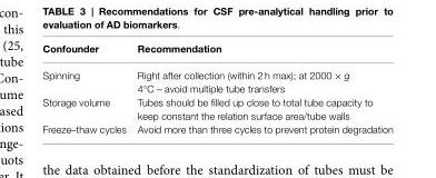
<table><thead><tr><td>Confounder</td><td>Recommendation</td></tr></thead><tbody><tr><td>Spinning</td><td>Right after collection (within 2 h max); at 2000 × g 4°C – avoid multiple tube transfers</td></tr><tr><td>Storage volume</td><td>Tubes should be filled up close to total tube capacity to keep constant the relation surface area/tube walls</td></tr><tr><td>Freeze–thaw cycles</td><td>Avoid more than three cycles to prevent protein degradation</td></tr></tbody></table>